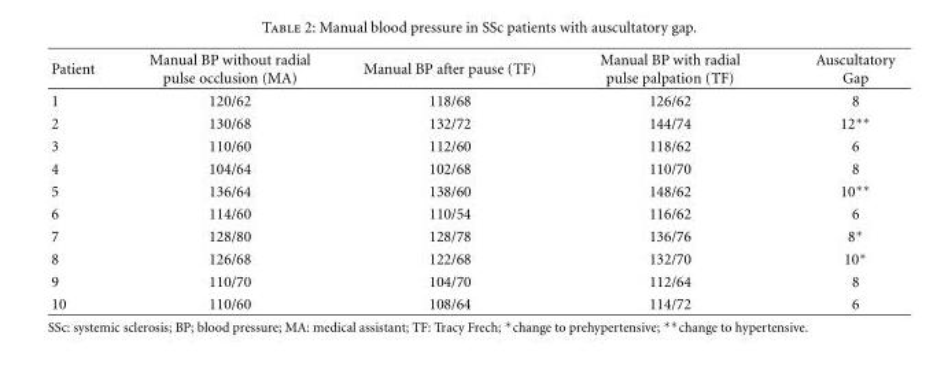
<table><thead><tr><td>Patient</td><td>Manual BP without radial pulse occlusion (MA)</td><td>Manual BP after pause (TF)</td><td>Manual BP with radial pulse palpation (TF)</td><td>Auscultatory Gap</td></tr></thead><tbody><tr><td>1</td><td>120/62</td><td>118/68</td><td>126/62</td><td>8</td></tr><tr><td>2</td><td>130/68</td><td>132/72</td><td>144/74</td><td>12∗∗</td></tr><tr><td>3</td><td>110/60</td><td>112/60</td><td>118/62</td><td>6</td></tr><tr><td>4</td><td>104/64</td><td>102/68</td><td>110/70</td><td>8</td></tr><tr><td>5</td><td>136/64</td><td>138/60</td><td>148/62</td><td>10∗∗</td></tr><tr><td>6</td><td>114/60</td><td>110/54</td><td>116/62</td><td>6</td></tr><tr><td>7</td><td>128/80</td><td>128/78</td><td>136/76</td><td>8∗</td></tr><tr><td>8</td><td>126/68</td><td>122/68</td><td>132/70</td><td>10∗</td></tr><tr><td>9</td><td>110/70</td><td>104/70</td><td>112/64</td><td>8</td></tr><tr><td>10</td><td>110/60</td><td>108/64</td><td>114/72</td><td>6</td></tr></tbody></table>